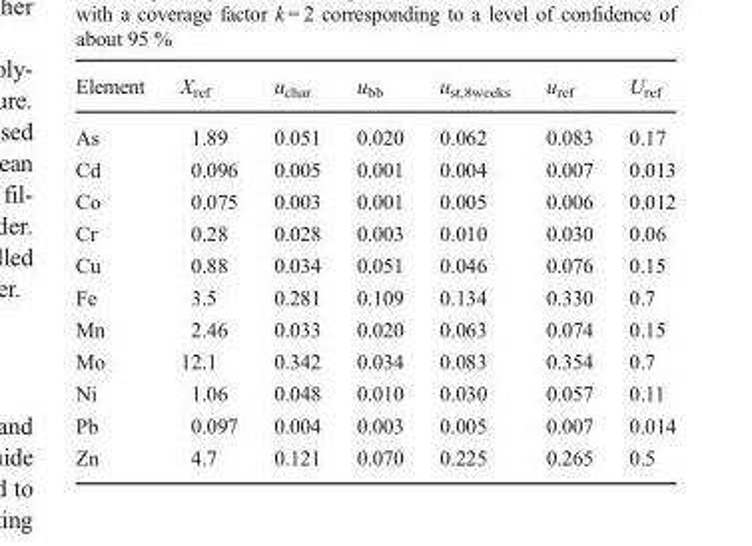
<table><thead><tr><td>Element</td><td>X<sub>ref</sub></td><td>u<sub>char</sub></td><td>u<sub>bb</sub></td><td>u<sub>st,8weeks</sub></td><td>u<sub>ref</sub></td><td>U<sub>ref</sub></td></tr></thead><tbody><tr><td>As</td><td>1.89</td><td>0.051</td><td>0.020</td><td>0.062</td><td>0.083</td><td>0.17</td></tr><tr><td>Cd</td><td>0.096</td><td>0.005</td><td>0.001</td><td>0.004</td><td>0.007</td><td>0.013</td></tr><tr><td>Co</td><td>0.075</td><td>0.003</td><td>0.001</td><td>0.005</td><td>0.006</td><td>0.012</td></tr><tr><td>Cr</td><td>0.28</td><td>0.028</td><td>0.003</td><td>0.010</td><td>0.030</td><td>0.06</td></tr><tr><td>Cu</td><td>0.88</td><td>0.034</td><td>0.051</td><td>0.046</td><td>0.076</td><td>0.15</td></tr><tr><td>Fe</td><td>3.5</td><td>0.281</td><td>0.109</td><td>0.134</td><td>0.330</td><td>0.7</td></tr><tr><td>Mn</td><td>2.46</td><td>0.033</td><td>0.020</td><td>0.063</td><td>0.074</td><td>0.15</td></tr><tr><td>Mo</td><td>12.1</td><td>0.342</td><td>0.034</td><td>0.083</td><td>0.354</td><td>0.7</td></tr><tr><td>Ni</td><td>1.06</td><td>0.048</td><td>0.010</td><td>0.030</td><td>0.057</td><td>0.11</td></tr><tr><td>Pb</td><td>0.097</td><td>0.004</td><td>0.003</td><td>0.005</td><td>0.007</td><td>0.014</td></tr><tr><td>Zn</td><td>4.7</td><td>0.121</td><td>0.070</td><td>0.225</td><td>0.265</td><td>0.5</td></tr></tbody></table>